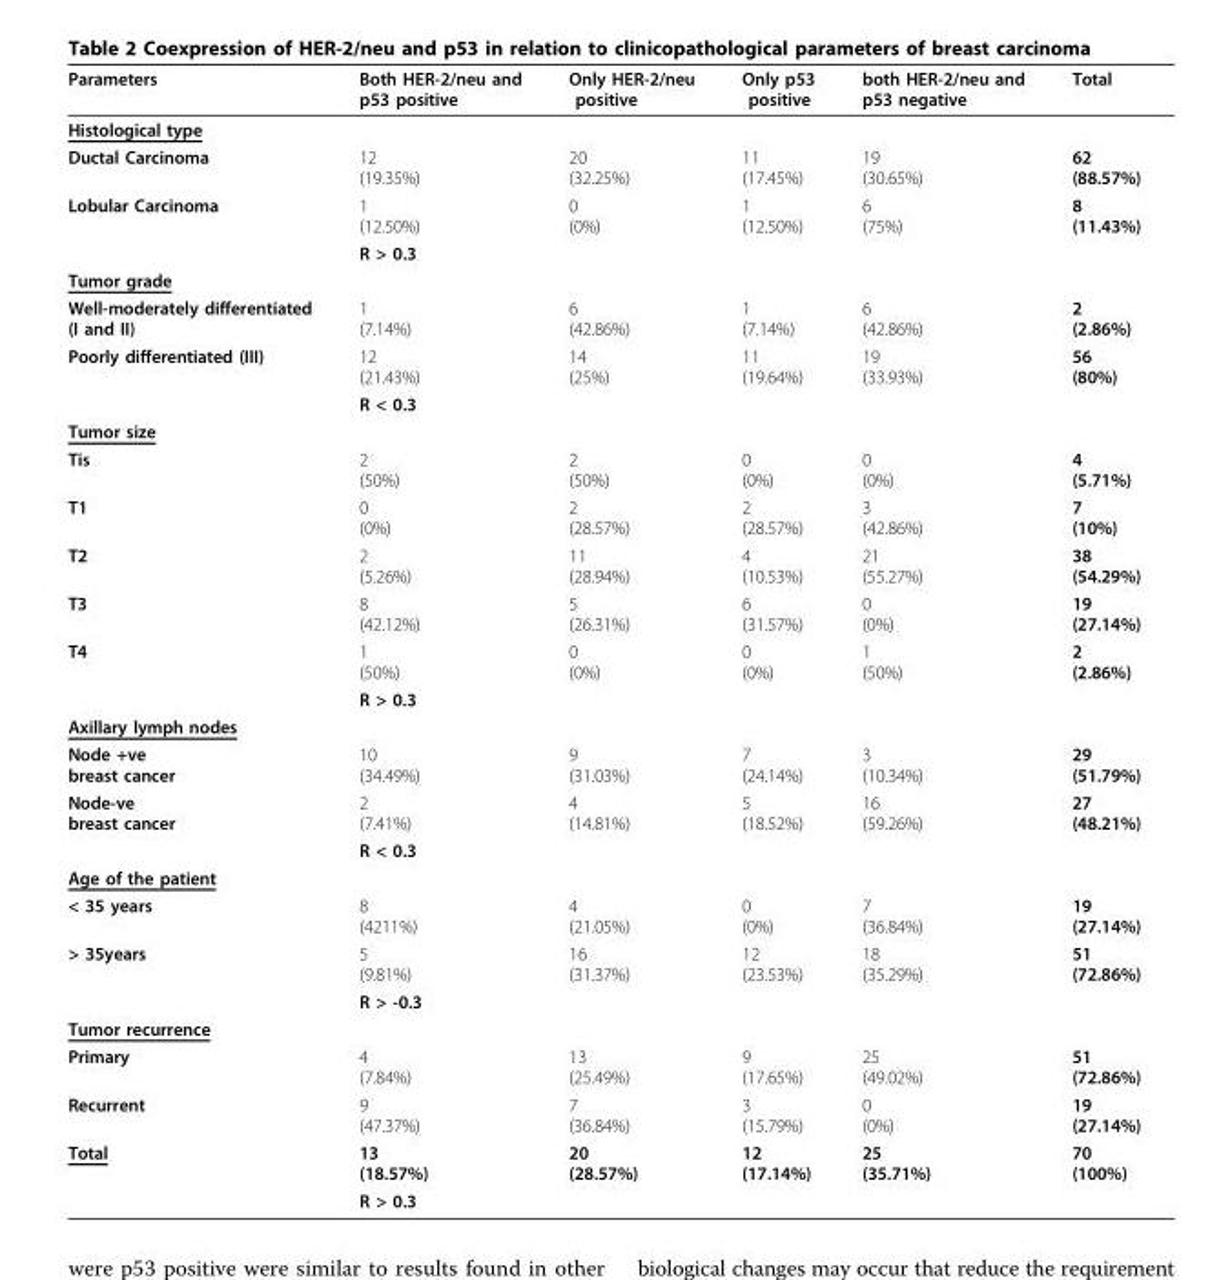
<table><thead><tr><td>Parameters</td><td>Both HER-2/neu and p53 positive</td><td>Only HER-2/neu positive</td><td>Only p53 positive</td><td>both HER-2/neu and p53 negative</td><td>Total</td></tr></thead><tbody><tr><td colspan="6">Histological type</td></tr><tr><td>Ductal Carcinoma</td><td>12 (19.35%)</td><td>20 (32.25%)</td><td>11 (17.45%)</td><td>19 (30.65%)</td><td>62 (88.57%)</td></tr><tr><td rowspan="2">Lobular Carcinoma</td><td>1 (12.50%)</td><td>0 (0%)</td><td>1 (12.50%)</td><td>6 (75%)</td><td>8 (11.43%)</td></tr><tr><td>R &gt; 0.3</td><td></td><td></td><td></td><td></td></tr><tr><td colspan="6">Tumor grade</td></tr><tr><td>Well-moderately differentiated (I and II)</td><td>1 (7.14%)</td><td>6 (42.86%)</td><td>1 (7.14%)</td><td>6 (42.86%)</td><td>2 (2.86%)</td></tr><tr><td rowspan="2">Poorly differentiated (III)</td><td>12 (21.43%)</td><td>14 (25%)</td><td>11 (19.64%)</td><td>19 (33.93%)</td><td>56 (80%)</td></tr><tr><td>R &lt; 0.3</td><td></td><td></td><td></td><td></td></tr><tr><td colspan="6">Tumor size</td></tr><tr><td>Tis</td><td>2 (50%)</td><td>2 (50%)</td><td>0 (0%)</td><td>0 (0%)</td><td>4 (5.71%)</td></tr><tr><td>T1</td><td>0 (0%)</td><td>2 (28.57%)</td><td>2 (28.57%)</td><td>3 (42.86%)</td><td>7 (10%)</td></tr><tr><td>T2</td><td>2 (5.26%)</td><td>11 (28.94%)</td><td>4 (10.53%)</td><td>21 (55.27%)</td><td>38 (54.29%)</td></tr><tr><td>T3</td><td>8 (42.12%)</td><td>5 (26.31%)</td><td>6 (31.57%)</td><td>0 (0%)</td><td>19 (27.14%)</td></tr><tr><td rowspan="2">T4</td><td>1 (50%)</td><td>0 (0%)</td><td>0 (0%)</td><td>1 (50%)</td><td>2 (2.86%)</td></tr><tr><td>R &gt; 0.3</td><td></td><td></td><td></td><td></td></tr><tr><td colspan="6">Axillary lymph nodes</td></tr><tr><td>Node +ve breast cancer</td><td>10 (34.49%)</td><td>9 (31.03%)</td><td>7 (24.14%)</td><td>3 (10.34%)</td><td>29 (51.79%)</td></tr><tr><td rowspan="2">Node-ve breast cancer</td><td>2 (7.41%)</td><td>4 (14.81%)</td><td>5 (18.52%)</td><td>16 (59.26%)</td><td>27 (48.21%)</td></tr><tr><td>R &lt; 0.3</td><td></td><td></td><td></td><td></td></tr><tr><td colspan="6">Age of the patient</td></tr><tr><td>&lt; 35 years</td><td>8 (4211%)</td><td>4 (21.05%)</td><td>0 (0%)</td><td>7 (36.84%)</td><td>19 (27.14%)</td></tr><tr><td rowspan="2">&gt; 35years</td><td>5 (9.81%)</td><td>16 (31.37%)</td><td>12 (23.53%)</td><td>18 (35.29%)</td><td>51 (72.86%)</td></tr><tr><td>R &gt; -0.3</td><td></td><td></td><td></td><td></td></tr><tr><td colspan="6">Tumor recurrence</td></tr><tr><td>Primary</td><td>4 (7.84%)</td><td>13 (25.49%)</td><td>9 (17.65%)</td><td>25 (49.02%)</td><td>51 (72.86%)</td></tr><tr><td>Recurrent</td><td>9 (47.37%)</td><td>7 (36.84%)</td><td>3 (15.79%)</td><td>0 (0%)</td><td>19 (27.14%)</td></tr><tr><td rowspan="2">Total</td><td>13 (18.57%)</td><td>20 (28.57%)</td><td>12 (17.14%)</td><td>25 (35.71%)</td><td>70 (100%)</td></tr><tr><td>R &gt; 0.3</td><td></td><td></td><td></td><td></td></tr></tbody></table>